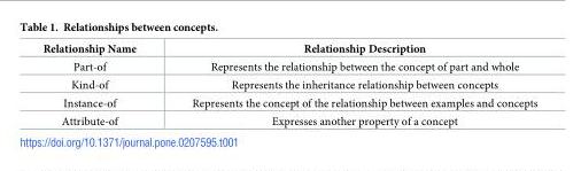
<table><thead><tr><td>Relationship Name</td><td>Relationship Description</td></tr></thead><tbody><tr><td>Part-of</td><td>Represents the relationship between the concept of part and whole</td></tr><tr><td>Kind-of</td><td>Represents the inheritance relationship between concepts</td></tr><tr><td>Instance-of</td><td>Represents the concept of the relationship between examples and concepts</td></tr><tr><td>Attribute-of</td><td>Expresses another property of a concept</td></tr></tbody></table>